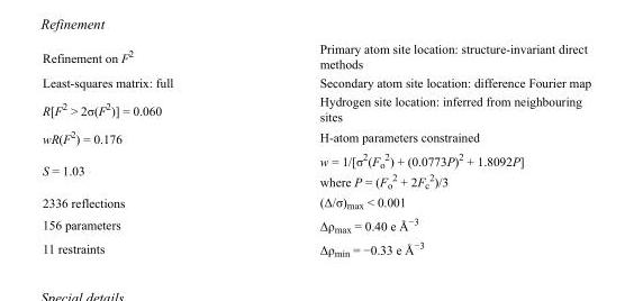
<table><tbody><tr><td>Refinement on F<sup>2</sup></td><td>Primary atom site location: structure-invariant direct methods</td></tr><tr><td>Least-squares matrix: full</td><td>Secondary atom site location: difference Fourier map</td></tr><tr><td>R[F<sup>2</sup> &gt; 2σ(F<sup>2</sup>)] = 0.060</td><td>Hydrogen site location: inferred from neighbouring sites</td></tr><tr><td>wR(F<sup>2</sup>) = 0.176</td><td>H-atom parameters constrained</td></tr><tr><td>S = 1.03</td><td>w = 1/[σ<sup>2</sup>(F<sub>o</sub> <sup>2</sup>) + (0.0773P)<sup>2</sup> + 1.8092P] where P = (F<sub>o</sub> <sup>2</sup> + 2F<sub>c</sub> <sup>2</sup>)/3</td></tr><tr><td>2336 reflections</td><td>(Δ/σ)<sub>max</sub> &lt; 0.001</td></tr><tr><td>156 parameters</td><td>Δρ<sub>max</sub> = 0.40 e Å<sup>−3</sup></td></tr><tr><td>11 restraints</td><td>Δρmin = −0.33 e Å−3</td></tr></tbody></table>